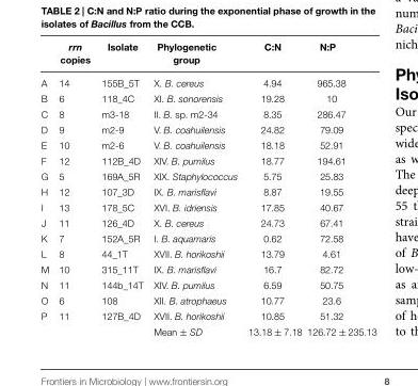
<table><thead><tr><td></td><td>rrn copies</td><td>Isolate</td><td>Phylogenetic group</td><td>C:N</td><td>N:P</td></tr></thead><tbody><tr><td>A</td><td>14</td><td>155B_5T</td><td>X. B. cereus</td><td>4.94</td><td>965.38</td></tr><tr><td>B</td><td>6</td><td>118_4C</td><td>XI. B. sonorensis</td><td>19.28</td><td>10</td></tr><tr><td>C</td><td>8</td><td>m3-18</td><td>II. B. sp. m2-34</td><td>8.35</td><td>286.47</td></tr><tr><td>D</td><td>9</td><td>m2-9</td><td>V. B. coahuilensis</td><td>24.82</td><td>79.09</td></tr><tr><td>E</td><td>10</td><td>m2-6</td><td>V. B. coahuilensis</td><td>18.18</td><td>52.91</td></tr><tr><td>F</td><td>12</td><td>112B_4D</td><td>XIV. B. pumilus</td><td>18.77</td><td>194.61</td></tr><tr><td>G</td><td>5</td><td>169A_5R</td><td>XIX. Staphylococcus</td><td>5.75</td><td>25.83</td></tr><tr><td>H</td><td>12</td><td>107_3D</td><td>IX. B. marisflavi</td><td>8.87</td><td>19.55</td></tr><tr><td>I</td><td>13</td><td>178_5C</td><td>XVI. B. idriensis</td><td>17.85</td><td>40.67</td></tr><tr><td>J</td><td>11</td><td>126_4D</td><td>X. B. cereus</td><td>24.73</td><td>67.41</td></tr><tr><td>K</td><td>7</td><td>152A_5R</td><td>I. B. aquamaris</td><td>0.62</td><td>72.58</td></tr><tr><td>L</td><td>8</td><td>44_1T</td><td>XVII. B. horikoshii</td><td>13.79</td><td>4.61</td></tr><tr><td>M</td><td>10</td><td>315_11T</td><td>IX. B. marisflavi</td><td>16.7</td><td>82.72</td></tr><tr><td>N</td><td>11</td><td>144b_14T</td><td>XIV. B. pumilus</td><td>6.59</td><td>50.75</td></tr><tr><td>O</td><td>6</td><td>108</td><td>XII. B. atrophaeus</td><td>10.77</td><td>23.6</td></tr><tr><td rowspan="2">P</td><td>11</td><td>127B_4D</td><td>XVII. B. horikoshii</td><td>10.85</td><td>51.32</td></tr><tr><td></td><td></td><td>Mean ± SD</td><td>13.18 ± 7.18</td><td>126.72 ± 235.13</td></tr></tbody></table>